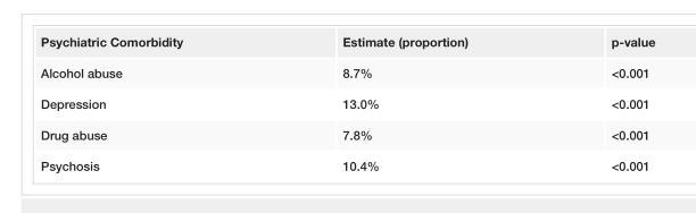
<table><tbody><tr><td>Psychiatric Comorbidity</td><td>Estimate (proportion)</td><td>p-value</td></tr><tr><td>Alcohol abuse</td><td>8.7%</td><td>&lt;0.001</td></tr><tr><td>Depression</td><td>13.0%</td><td>&lt;0.001</td></tr><tr><td>Drug abuse</td><td>7.8%</td><td>&lt;0.001</td></tr><tr><td>Psychosis</td><td>10.4%</td><td>&lt;0.001</td></tr></tbody></table>